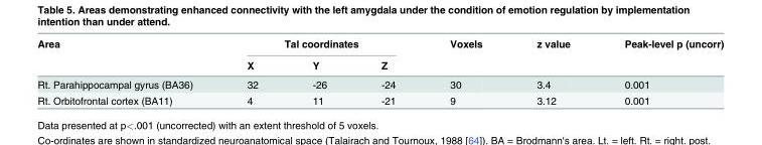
<table><thead><tr><td rowspan="2">Area</td><td colspan="3">Tal coordinates</td><td rowspan="2">Voxels</td><td rowspan="2">z value</td><td rowspan="2">Peak-level p (uncorr)</td></tr><tr><td>X</td><td>Y</td><td>Z</td></tr></thead><tbody><tr><td>Rt. Parahippocampal gyrus (BA36)</td><td>32</td><td>-26</td><td>-24</td><td>30</td><td>3.4</td><td>0.001</td></tr><tr><td>Rt. Orbitofrontal cortex (BA11)</td><td>4</td><td>11</td><td>-21</td><td>9</td><td>3.12</td><td>0.001</td></tr></tbody></table>